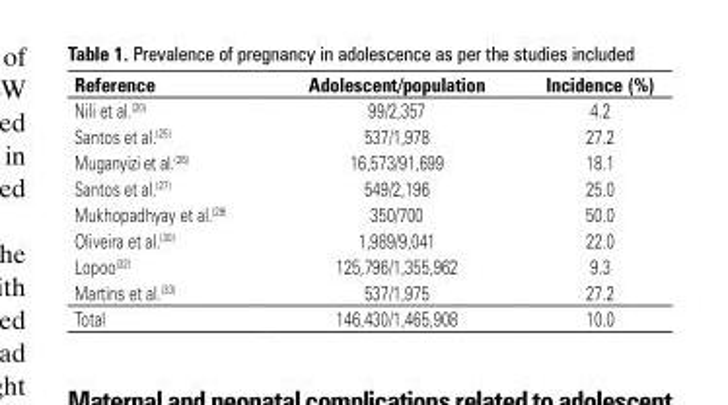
<table><thead><tr><td>Reference</td><td>Adolescent/population</td><td>Incidence (%)</td></tr></thead><tbody><tr><td>Nili et al.<sup>(20)</sup></td><td>99/2,357</td><td>4.2</td></tr><tr><td>Santos et al.<sup>(25)</sup></td><td>537/1,978</td><td>27.2</td></tr><tr><td>Muganyizi et al.<sup>(26)</sup></td><td>16,573/91,699</td><td>18.1</td></tr><tr><td>Santos et al.<sup>(27)</sup></td><td>549/2,196</td><td>25.0</td></tr><tr><td>Mukhopadhyay et al.<sup>(29)</sup></td><td>350/700</td><td>50.0</td></tr><tr><td>Oliveira et al.<sup>(30)</sup></td><td>1,989/9,041</td><td>22.0</td></tr><tr><td>Lopoo<sup>(32)</sup></td><td>125,796/1,355,962</td><td>9.3</td></tr><tr><td>Martins et al.<sup>(33)</sup></td><td>537/1,975</td><td>27.2</td></tr><tr><td>Total</td><td>146,430/1,465,908</td><td>10.0</td></tr></tbody></table>